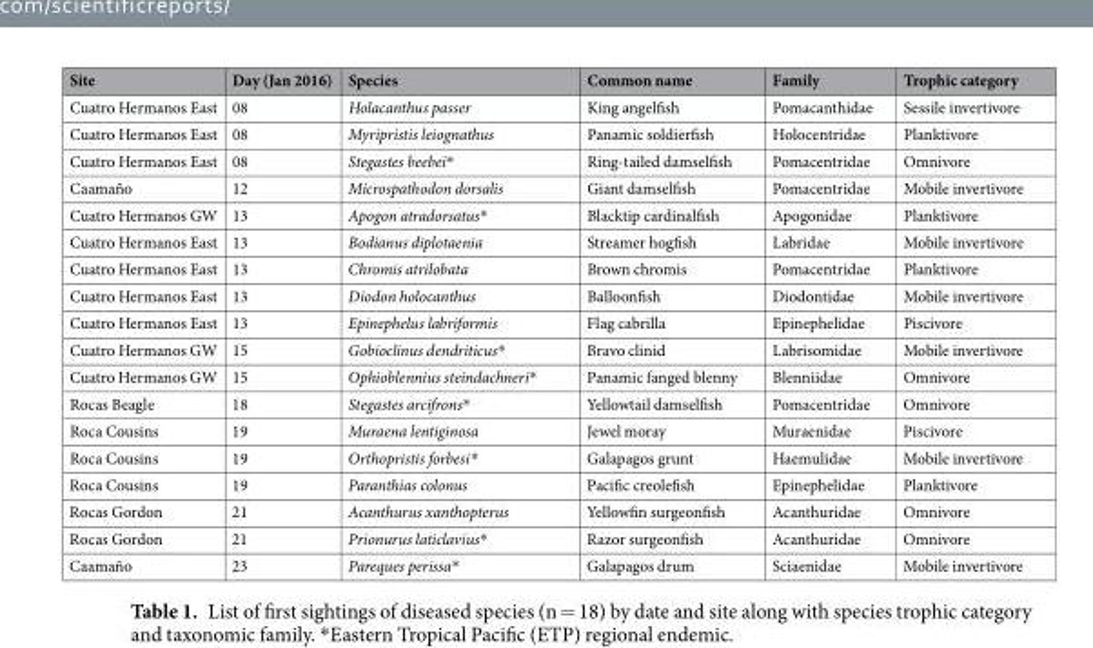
<table><thead><tr><td>Site</td><td>Day (Jan 2016)</td><td>Species</td><td>Common name</td><td>Family</td><td>Trophic category</td></tr></thead><tbody><tr><td>Cuatro Hermanos East</td><td>08</td><td>Holacanthus passer</td><td>King angelfish</td><td>Pomacanthidae</td><td>Sessile invertivore</td></tr><tr><td>Cuatro Hermanos East</td><td>08</td><td>Myripristis leiognathus</td><td>Panamic soldierfish</td><td>Holocentridae</td><td>Planktivore</td></tr><tr><td>Cuatro Hermanos East</td><td>08</td><td>Stegastes beebei*</td><td>Ring-tailed damselfish</td><td>Pomacentridae</td><td>Omnivore</td></tr><tr><td>Caamaño</td><td>12</td><td>Microspathodon dorsalis</td><td>Giant damselfish</td><td>Pomacentridae</td><td>Mobile invertivore</td></tr><tr><td>Cuatro Hermanos GW</td><td>13</td><td>Apogon atradorsatus*</td><td>Blacktip cardinalfish</td><td>Apogonidae</td><td>Planktivore</td></tr><tr><td>Cuatro Hermanos East</td><td>13</td><td>Bodianus diplotaenia</td><td>Streamer hogfish</td><td>Labridae</td><td>Mobile invertivore</td></tr><tr><td>Cuatro Hermanos East</td><td>13</td><td>Chromis atrilobata</td><td>Brown chromis</td><td>Pomacentridae</td><td>Planktivore</td></tr><tr><td>Cuatro Hermanos East</td><td>13</td><td>Diodon holocanthus</td><td>Balloonfish</td><td>Diodontidae</td><td>Mobile invertivore</td></tr><tr><td>Cuatro Hermanos East</td><td>13</td><td>Epinephelus labriformis</td><td>Flag cabrilla</td><td>Epinephelidae</td><td>Piscivore</td></tr><tr><td>Cuatro Hermanos GW</td><td>15</td><td>Gobioclinus dendriticus*</td><td>Bravo clinid</td><td>Labrisomidae</td><td>Mobile invertivore</td></tr><tr><td>Cuatro Hermanos GW</td><td>15</td><td>Ophioblennius steindachneri*</td><td>Panamic fanged blenny</td><td>Blenniidae</td><td>Omnivore</td></tr><tr><td>Rocas Beagle</td><td>18</td><td>Stegastes arcifrons*</td><td>Yellowtail damselfish</td><td>Pomacentridae</td><td>Omnivore</td></tr><tr><td>Roca Cousins</td><td>19</td><td>Muraena lentiginosa</td><td>Jewel moray</td><td>Muraenidae</td><td>Piscivore</td></tr><tr><td>Roca Cousins</td><td>19</td><td>Orthopristis forbesi*</td><td>Galapagos grunt</td><td>Haemulidae</td><td>Mobile invertivore</td></tr><tr><td>Roca Cousins</td><td>19</td><td>Paranthias colonus</td><td>Pacific creolefish</td><td>Epinephelidae</td><td>Planktivore</td></tr><tr><td>Rocas Gordon</td><td>21</td><td>Acanthurus xanthopterus</td><td>Yellowfin surgeonfish</td><td>Acanthuridae</td><td>Omnivore</td></tr><tr><td>Rocas Gordon</td><td>21</td><td>Prionurus laticlavius*</td><td>Razor surgeonfish</td><td>Acanthuridae</td><td>Omnivore</td></tr><tr><td>Caamaño</td><td>23</td><td>Pareques perissa*</td><td>Galapagos drum</td><td>Sciaenidae</td><td>Mobile invertivore</td></tr></tbody></table>